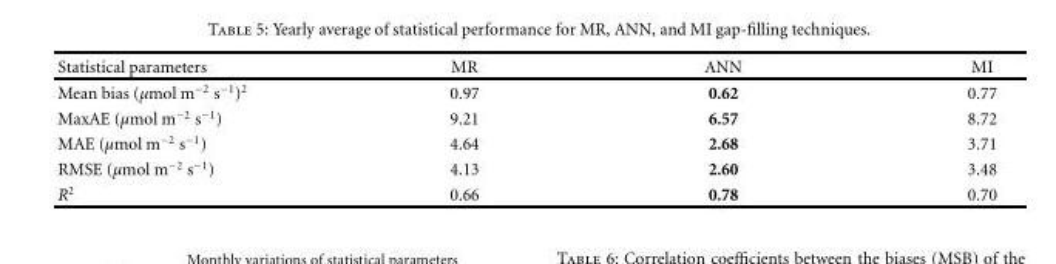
<table><thead><tr><td>Statistical parameters</td><td>MR</td><td>ANN</td><td>MI</td></tr></thead><tbody><tr><td>Mean bias (µmol m<sup>−2</sup> s<sup>−1</sup>)<sup>2</sup></td><td>0.97</td><td>0.62</td><td>0.77</td></tr><tr><td>MaxAE (µmol m<sup>−2</sup> s<sup>−1</sup>)</td><td>9.21</td><td>6.57</td><td>8.72</td></tr><tr><td>MAE (µmol m<sup>−2</sup> s<sup>−1</sup>)</td><td>4.64</td><td>2.68</td><td>3.71</td></tr><tr><td>RMSE (µmol m<sup>−2</sup> s<sup>−1</sup>)</td><td>4.13</td><td>2.60</td><td>3.48</td></tr><tr><td>R<sup>2</sup></td><td>0.66</td><td>0.78</td><td>0.70</td></tr></tbody></table>